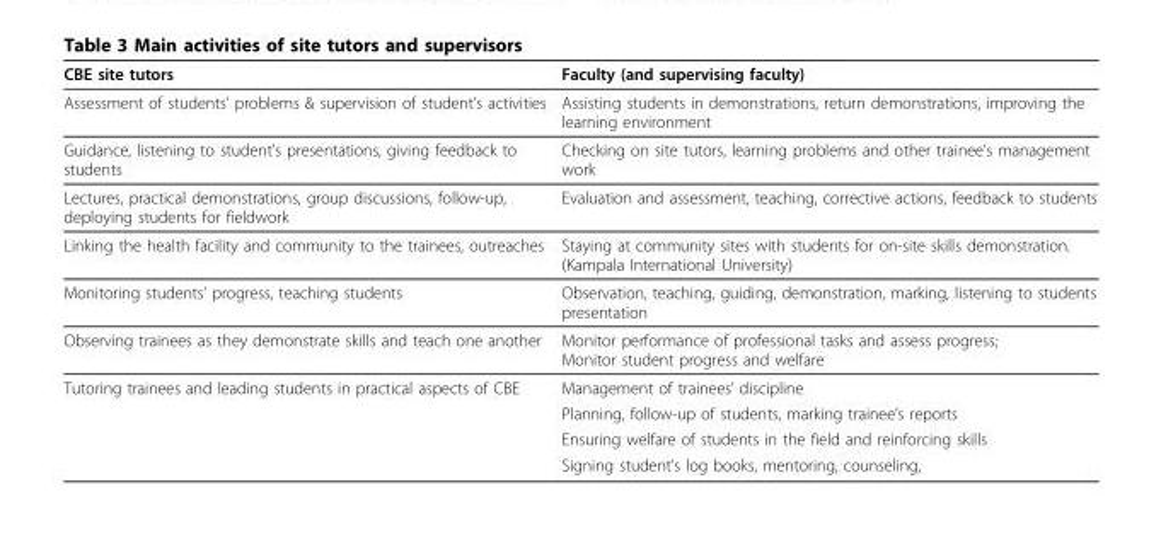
<table><thead><tr><td>CBE site tutors</td><td>Faculty (and supervising faculty)</td></tr></thead><tbody><tr><td>Assessment of students’ problems &amp; supervision of student’s activities</td><td>Assisting students in demonstrations, return demonstrations, improving the learning environment</td></tr><tr><td>Guidance, listening to student’s presentations, giving feedback to students</td><td>Checking on site tutors, learning problems and other trainee’s management work</td></tr><tr><td>Lectures, practical demonstrations, group discussions, follow-up, deploying students for fieldwork</td><td>Evaluation and assessment, teaching, corrective actions, feedback to students</td></tr><tr><td>Linking the health facility and community to the trainees, outreaches</td><td>Staying at community sites with students for on-site skills demonstration. (Kampala International University)</td></tr><tr><td>Monitoring students’ progress, teaching students</td><td>Observation, teaching, guiding, demonstration, marking, listening to students presentation</td></tr><tr><td>Observing trainees as they demonstrate skills and teach one another</td><td>Monitor performance of professional tasks and assess progress; Monitor student progress and welfare</td></tr><tr><td rowspan="4">Tutoring trainees and leading students in practical aspects of CBE</td><td>Management of trainees’ discipline</td></tr><tr><td>Planning, follow-up of students, marking trainee’s reports</td></tr><tr><td>Ensuring welfare of students in the field and reinforcing skills</td></tr><tr><td>Signing student’s log books, mentoring, counseling,</td></tr></tbody></table>